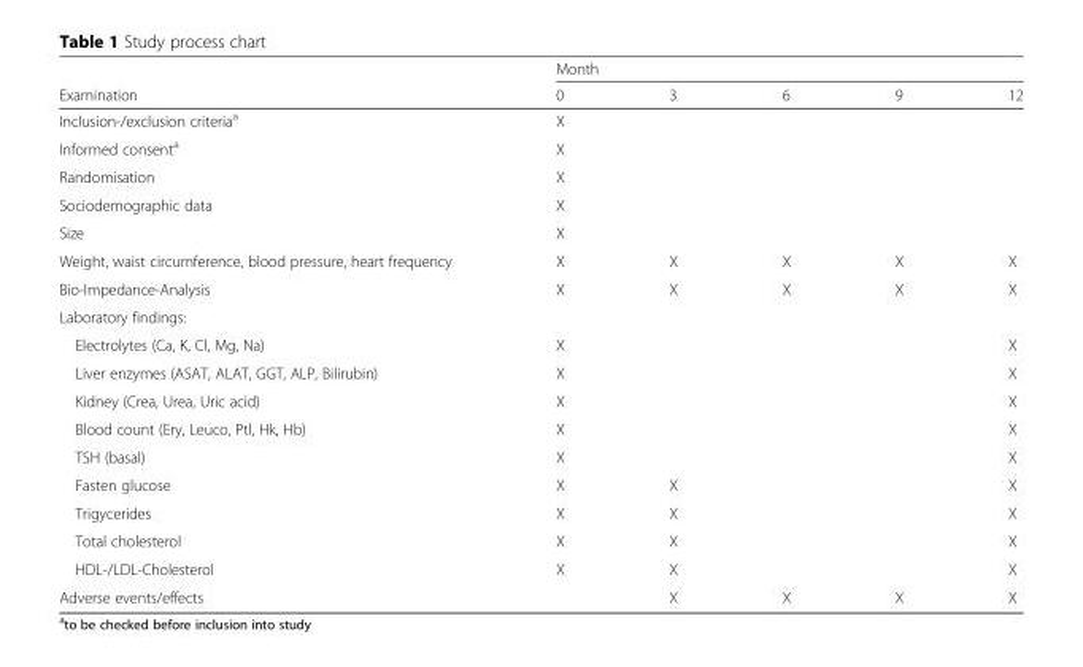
<table><thead><tr><td rowspan="2">Examination</td><td colspan="5">Month</td></tr><tr><td>0</td><td>3</td><td>6</td><td>9</td><td>12</td></tr></thead><tbody><tr><td>Inclusion-/exclusion criteria<sup>a</sup></td><td>X</td><td></td><td></td><td></td><td></td></tr><tr><td>Informed consent<sup>a</sup></td><td>X</td><td></td><td></td><td></td><td></td></tr><tr><td>Randomisation</td><td>X</td><td></td><td></td><td></td><td></td></tr><tr><td>Sociodemographic data</td><td>X</td><td></td><td></td><td></td><td></td></tr><tr><td>Size</td><td>X</td><td></td><td></td><td></td><td></td></tr><tr><td>Weight, waist circumference, blood pressure, heart frequency</td><td>X</td><td>X</td><td>X</td><td>X</td><td>X</td></tr><tr><td>Bio-Impedance-Analysis</td><td>X</td><td>X</td><td>X</td><td>X</td><td>X</td></tr><tr><td colspan="6">Laboratory findings:</td></tr><tr><td>Electrolytes (Ca, K, Cl, Mg, Na)</td><td>X</td><td></td><td></td><td></td><td>X</td></tr><tr><td>Liver enzymes (ASAT, ALAT, GGT, ALP, Bilirubin)</td><td>X</td><td></td><td></td><td></td><td>X</td></tr><tr><td>Kidney (Crea, Urea, Uric acid)</td><td>X</td><td></td><td></td><td></td><td>X</td></tr><tr><td>Blood count (Ery, Leuco, Ptl, Hk, Hb)</td><td>X</td><td></td><td></td><td></td><td>X</td></tr><tr><td>TSH (basal)</td><td>X</td><td></td><td></td><td></td><td>X</td></tr><tr><td>Fasten glucose</td><td>X</td><td>X</td><td></td><td></td><td>X</td></tr><tr><td>Trigycerides</td><td>X</td><td>X</td><td></td><td></td><td>X</td></tr><tr><td>Total cholesterol</td><td>X</td><td>X</td><td></td><td></td><td>X</td></tr><tr><td>HDL-/LDL-Cholesterol</td><td>X</td><td>X</td><td></td><td></td><td>X</td></tr><tr><td>Adverse events/effects</td><td></td><td>X</td><td>X</td><td>X</td><td>X</td></tr></tbody></table>